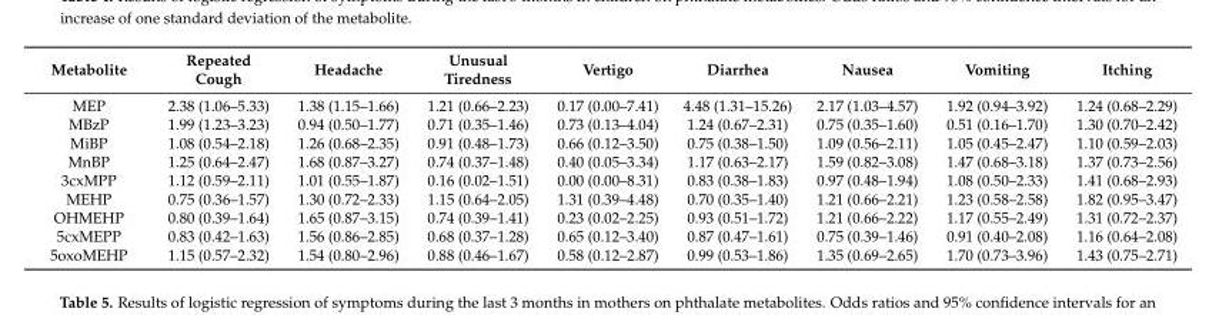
<table><thead><tr><td>Metabolite</td><td>Repeated Cough</td><td>Headache</td><td>Unusual Tiredness</td><td>Vertigo</td><td>Diarrhea</td><td>Nausea</td><td>Vomiting</td><td>Itching</td></tr></thead><tbody><tr><td>MEP</td><td>2.38 (1.06–5.33)</td><td>1.38 (1.15–1.66)</td><td>1.21 (0.66–2.23)</td><td>0.17 (0.00–7.41)</td><td>4.48 (1.31–15.26)</td><td>2.17 (1.03–4.57)</td><td>1.92 (0.94–3.92)</td><td>1.24 (0.68–2.29)</td></tr><tr><td>MBzP</td><td>1.99 (1.23–3.23)</td><td>0.94 (0.50–1.77)</td><td>0.71 (0.35–1.46)</td><td>0.73 (0.13–4.04)</td><td>1.24 (0.67–2.31)</td><td>0.75 (0.35–1.60)</td><td>0.51 (0.16–1.70)</td><td>1.30 (0.70–2.42)</td></tr><tr><td>MiBP</td><td>1.08 (0.54–2.18)</td><td>1.26 (0.68–2.35)</td><td>0.91 (0.48–1.73)</td><td>0.66 (0.12–3.50)</td><td>0.75 (0.38–1.50)</td><td>1.09 (0.56–2.11)</td><td>1.05 (0.45–2.47)</td><td>1.10 (0.59–2.03)</td></tr><tr><td>MnBP</td><td>1.25 (0.64–2.47)</td><td>1.68 (0.87–3.27)</td><td>0.74 (0.37–1.48)</td><td>0.40 (0.05–3.34)</td><td>1.17 (0.63–2.17)</td><td>1.59 (0.82–3.08)</td><td>1.47 (0.68–3.18)</td><td>1.37 (0.73–2.56)</td></tr><tr><td>3cxMPP</td><td>1.12 (0.59–2.11)</td><td>1.01 (0.55–1.87)</td><td>0.16 (0.02–1.51)</td><td>0.00 (0.00–8.31)</td><td>0.83 (0.38–1.83)</td><td>0.97 (0.48–1.94)</td><td>1.08 (0.50–2.33)</td><td>1.41 (0.68–2.93)</td></tr><tr><td>MEHP</td><td>0.75 (0.36–1.57)</td><td>1.30 (0.72–2.33)</td><td>1.15 (0.64–2.05)</td><td>1.31 (0.39–4.48)</td><td>0.70 (0.35–1.40)</td><td>1.21 (0.66–2.21)</td><td>1.23 (0.58–2.58)</td><td>1.82 (0.95–3.47)</td></tr><tr><td>OHMEHP</td><td>0.80 (0.39–1.64)</td><td>1.65 (0.87–3.15)</td><td>0.74 (0.39–1.41)</td><td>0.23 (0.02–2.25)</td><td>0.93 (0.51–1.72)</td><td>1.21 (0.66–2.22)</td><td>1.17 (0.55–2.49)</td><td>1.31 (0.72–2.37)</td></tr><tr><td>5cxMEPP</td><td>0.83 (0.42–1.63)</td><td>1.56 (0.86–2.85)</td><td>0.68 (0.37–1.28)</td><td>0.65 (0.12–3.40)</td><td>0.87 (0.47–1.61)</td><td>0.75 (0.39–1.46)</td><td>0.91 (0.40–2.08)</td><td>1.16 (0.64–2.08)</td></tr><tr><td>5oxoMEHP</td><td>1.15 (0.57–2.32)</td><td>1.54 (0.80–2.96)</td><td>0.88 (0.46–1.67)</td><td>0.58 (0.12–2.87)</td><td>0.99 (0.53–1.86)</td><td>1.35 (0.69–2.65)</td><td>1.70 (0.73–3.96)</td><td>1.43 (0.75–2.71)</td></tr></tbody></table>